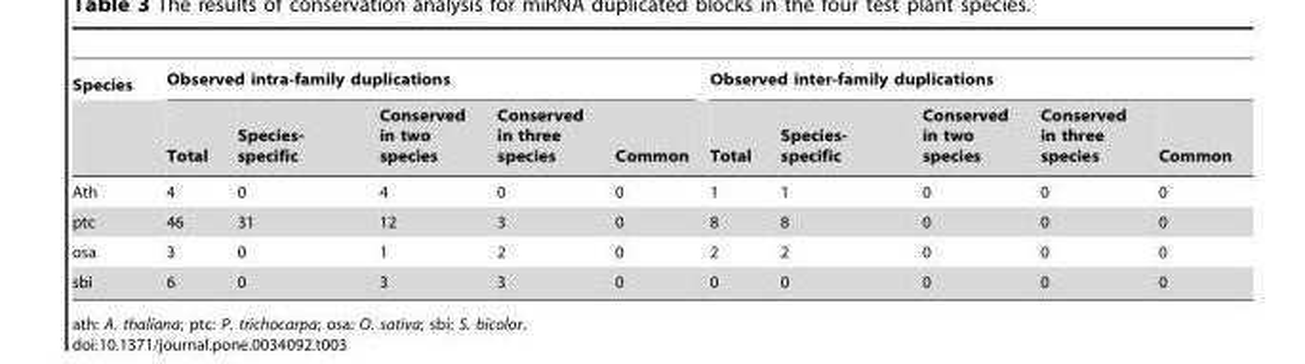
<table><thead><tr><td rowspan="2">Species</td><td colspan="5">Observed intra-family duplications</td><td colspan="5">Observed inter-family duplications</td></tr><tr><td>Total</td><td>Species- specific</td><td>Conserved in two species</td><td>Conserved in three species</td><td>Common</td><td>Total</td><td>Species- specific</td><td>Conserved in two species</td><td>Conserved in three species</td><td>Common</td></tr></thead><tbody><tr><td>Ath</td><td>4</td><td>0</td><td>4</td><td>0</td><td>0</td><td>1</td><td>1</td><td>0</td><td>0</td><td>0</td></tr><tr><td>ptc</td><td>46</td><td>31</td><td>12</td><td>3</td><td>0</td><td>8</td><td>8</td><td>0</td><td>0</td><td>0</td></tr><tr><td>osa</td><td>3</td><td>0</td><td>1</td><td>2</td><td>0</td><td>2</td><td>2</td><td>0</td><td>0</td><td>0</td></tr><tr><td>sbi</td><td>6</td><td>0</td><td>3</td><td>3</td><td>0</td><td>0</td><td>0</td><td>0</td><td>0</td><td>0</td></tr></tbody></table>